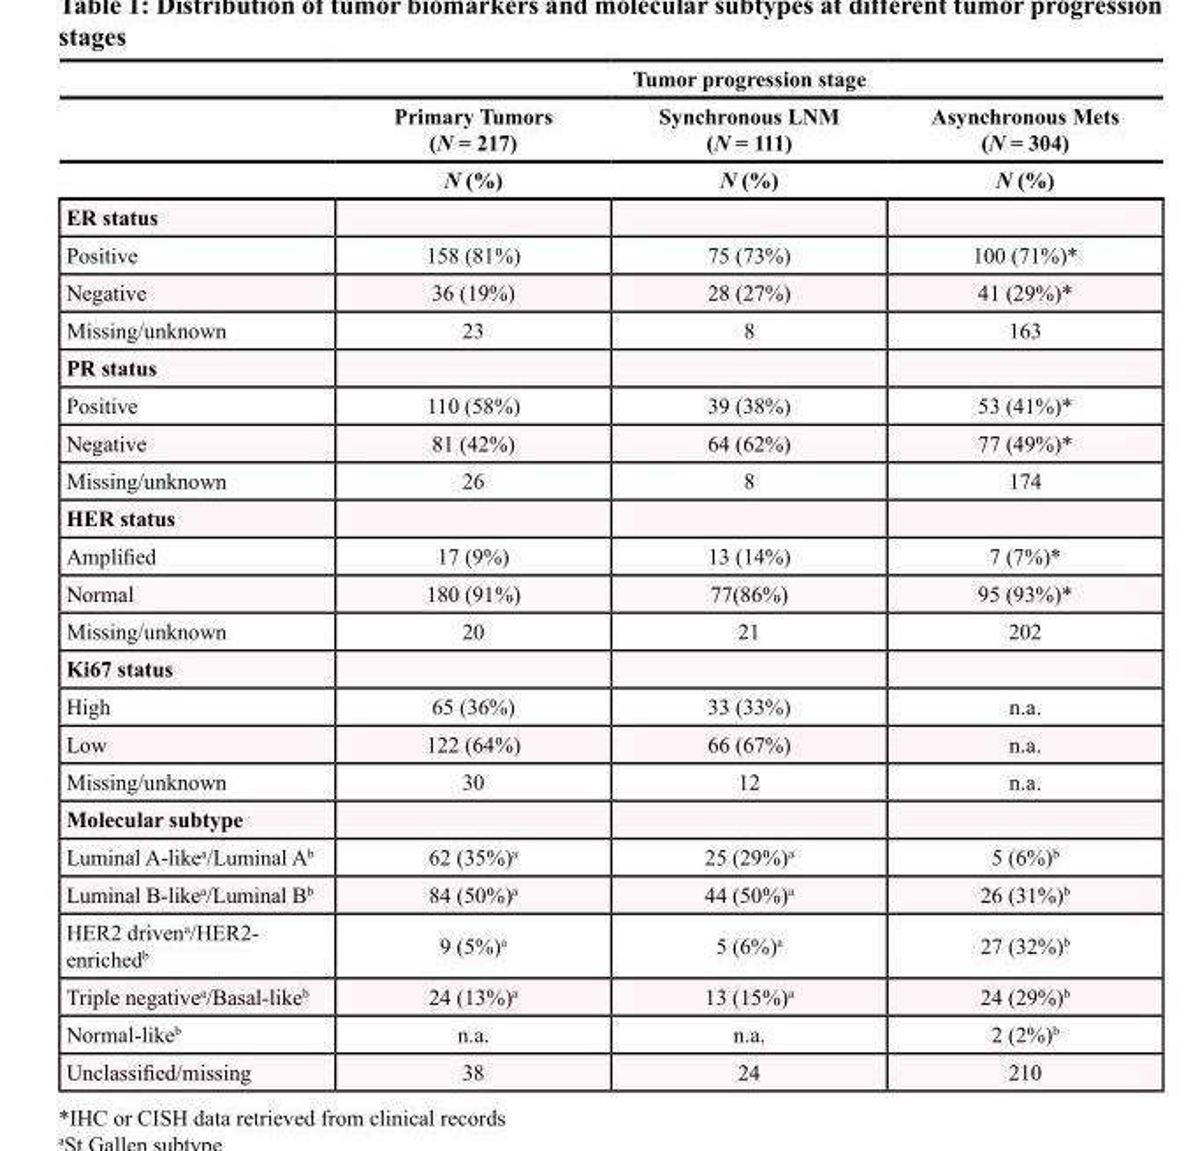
<table><thead><tr><td rowspan="3"></td><td colspan="3">Tumor progression stage</td></tr><tr><td rowspan="2">Primary Tumors (N = 217) N (%)</td><td rowspan="2">Synchronous LNM (N = 111) N (%)</td><td rowspan="2">Asynchronous Mets (N = 304) N (%)</td></tr><tr></tr></thead><tbody><tr><td colspan="4">ER status</td></tr><tr><td>Positive</td><td>158 (81%)</td><td>75 (73%)</td><td>100 (71%)*</td></tr><tr><td>Negative</td><td>36 (19%)</td><td>28 (27%)</td><td>41 (29%)*</td></tr><tr><td>Missing/unknown</td><td>23</td><td>8</td><td>163</td></tr><tr><td colspan="4">PR status</td></tr><tr><td>Positive</td><td>110 (58%)</td><td>39 (38%)</td><td>53 (41%)*</td></tr><tr><td>Negative</td><td>81 (42%)</td><td>64 (62%)</td><td>77 (49%)*</td></tr><tr><td>Missing/unknown</td><td>26</td><td>8</td><td>174</td></tr><tr><td colspan="4">HER status</td></tr><tr><td>Amplified</td><td>17 (9%)</td><td>13 (14%)</td><td>7 (7%)*</td></tr><tr><td>Normal</td><td>180 (91%)</td><td>77(86%)</td><td>95 (93%)*</td></tr><tr><td>Missing/unknown</td><td>20</td><td>21</td><td>202</td></tr><tr><td colspan="4">Ki67 status</td></tr><tr><td>High</td><td>65 (36%)</td><td>33 (33%)</td><td>n.a.</td></tr><tr><td>Low</td><td>122 (64%)</td><td>66 (67%)</td><td>n.a.</td></tr><tr><td>Missing/unknown</td><td>30</td><td>12</td><td>n.a.</td></tr><tr><td colspan="4">Molecular subtype</td></tr><tr><td>Luminal A-like<sup>a</sup>/Luminal A<sup>b</sup></td><td>62 (35%)<sup>a</sup></td><td>25 (29%)<sup>a</sup></td><td>5 (6%)<sup>b</sup></td></tr><tr><td>Luminal B-like<sup>a</sup>/Luminal B<sup>b</sup></td><td>84 (50%)<sup>a</sup></td><td>44 (50%)<sup>a</sup></td><td>26 (31%)<sup>b</sup></td></tr><tr><td>HER2 driven<sup>a</sup>/HER2- enriched<sup>b</sup></td><td>9 (5%)<sup>a</sup></td><td>5 (6%)<sup>a</sup></td><td>27 (32%)<sup>b</sup></td></tr><tr><td>Triple negative<sup>a</sup>/Basal-like<sup>b</sup></td><td>24 (13%)<sup>a</sup></td><td>13 (15%)<sup>a</sup></td><td>24 (29%)<sup>b</sup></td></tr><tr><td>Normal-like<sup>b</sup></td><td>n.a.</td><td>n.a.</td><td>2 (2%)<sup>b</sup></td></tr><tr><td>Unclassified/missing</td><td>38</td><td>24</td><td>210</td></tr></tbody></table>